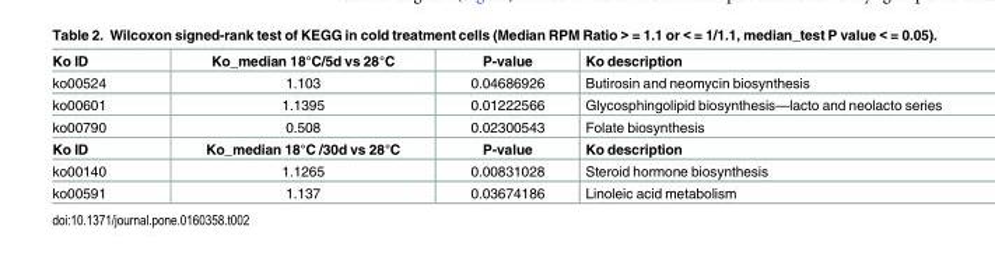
<table><tbody><tr><td>Ko ID</td><td>Ko_median 18°C/5d vs 28°C</td><td>P-value</td><td>Ko description</td></tr><tr><td>ko00524</td><td>1.103</td><td>0.04686926</td><td>Butirosin and neomycin biosynthesis</td></tr><tr><td>ko00601</td><td>1.1395</td><td>0.01222566</td><td>Glycosphingolipid biosynthesis—lacto and neolacto series</td></tr><tr><td>ko00790</td><td>0.508</td><td>0.02300543</td><td>Folate biosynthesis</td></tr><tr><td>Ko ID</td><td>Ko_median 18°C /30d vs 28°C</td><td>P-value</td><td>Ko description</td></tr><tr><td>ko00140</td><td>1.1265</td><td>0.00831028</td><td>Steroid hormone biosynthesis</td></tr><tr><td>ko00591</td><td>1.137</td><td>0.03674186</td><td>Linoleic acid metabolism</td></tr></tbody></table>